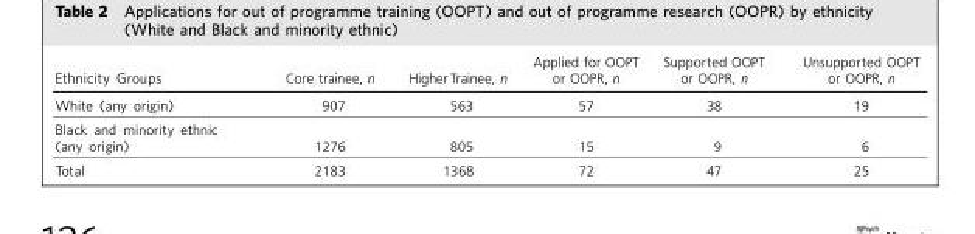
<table><thead><tr><td>Ethnicity Groups</td><td>Core trainee, n</td><td>Higher Trainee, n</td><td>Applied for OOPT or OOPR, n</td><td>Supported OOPT or OOPR, n</td><td>Unsupported OOPT or OOPR, n</td></tr></thead><tbody><tr><td>White (any origin)</td><td>907</td><td>563</td><td>57</td><td>38</td><td>19</td></tr><tr><td>Black and minority ethnic (any origin)</td><td>1276</td><td>805</td><td>15</td><td>9</td><td>6</td></tr><tr><td>Total</td><td>2183</td><td>1368</td><td>72</td><td>47</td><td>25</td></tr></tbody></table>